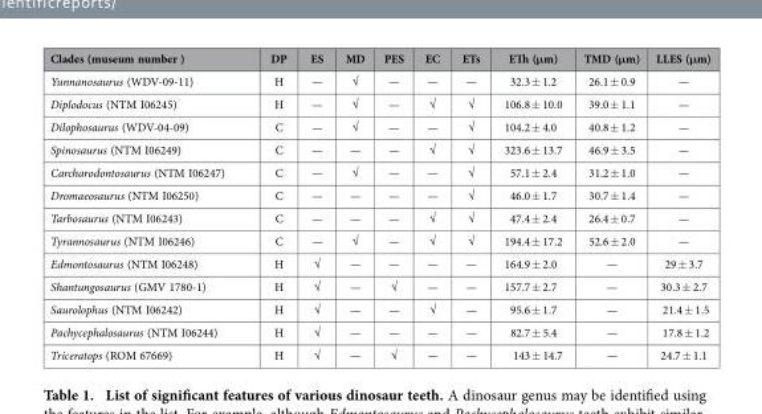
<table><thead><tr><td>Clades (museum number )</td><td>DP</td><td>ES</td><td>MD</td><td>PES</td><td>EC</td><td>ETs</td><td>ETh (μm)</td><td>TMD (μm)</td><td>LLES (μm)</td></tr></thead><tbody><tr><td>Yunnanosaurus (WDV-09-11)</td><td>H</td><td>—</td><td>√</td><td>—</td><td>—</td><td>—</td><td>32.3 ± 1.2</td><td>26.1 ± 0.9</td><td>—</td></tr><tr><td>Diplodocus (NTM I06245)</td><td>H</td><td>—</td><td>√</td><td>—</td><td>√</td><td>√</td><td>106.8 ± 10.0</td><td>39.0 ± 1.1</td><td>—</td></tr><tr><td>Dilophosaurus (WDV-04-09)</td><td>C</td><td>—</td><td>√</td><td>—</td><td>—</td><td>√</td><td>104.2 ± 4.0</td><td>40.8 ± 1.2</td><td>—</td></tr><tr><td>Spinosaurus (NTM I06249)</td><td>C</td><td>—</td><td>—</td><td>—</td><td>√</td><td>√</td><td>323.6 ± 13.7</td><td>46.9 ± 3.5</td><td>—</td></tr><tr><td>Carcharodontosaurus (NTM I06247)</td><td>C</td><td>—</td><td>√</td><td>—</td><td>—</td><td>√</td><td>57.1 ± 2.4</td><td>31.2 ± 1.0</td><td>—</td></tr><tr><td>Dromaeosaurus (NTM I06250)</td><td>C</td><td>—</td><td>—</td><td>—</td><td>—</td><td>√</td><td>46.0 ± 1.7</td><td>30.7 ± 1.4</td><td>—</td></tr><tr><td>Tarbosaurus (NTM I06243)</td><td>C</td><td>—</td><td>—</td><td>—</td><td>√</td><td>√</td><td>47.4 ± 2.4</td><td>26.4 ± 0.7</td><td>—</td></tr><tr><td>Tyrannosaurus (NTM I06246)</td><td>C</td><td>—</td><td>√</td><td>—</td><td>√</td><td>√</td><td>194.4 ± 17.2</td><td>52.6 ± 2.0</td><td>—</td></tr><tr><td>Edmontosaurus (NTM I06248)</td><td>H</td><td>√</td><td>—</td><td>—</td><td>—</td><td>—</td><td>164.9 ± 2.0</td><td>—</td><td>29 ± 3.7</td></tr><tr><td>Shantungosaurus (GMV 1780-1)</td><td>H</td><td>√</td><td>—</td><td>√</td><td>—</td><td>—</td><td>157.7 ± 2.7</td><td>—</td><td>30.3 ± 2.7</td></tr><tr><td>Saurolophus (NTM I06242)</td><td>H</td><td>√</td><td>—</td><td>—</td><td>√</td><td>—</td><td>95.6 ± 1.7</td><td>—</td><td>21.4 ± 1.5</td></tr><tr><td>Pachycephalosaurus (NTM I06244)</td><td>H</td><td>√</td><td>—</td><td>—</td><td>—</td><td>—</td><td>82.7 ± 5.4</td><td>—</td><td>17.8 ± 1.2</td></tr><tr><td>Triceratops (ROM 67669)</td><td>H</td><td>√</td><td>—</td><td>√</td><td>—</td><td>—</td><td>143 ± 14.7</td><td>—</td><td>24.7 ± 1.1</td></tr></tbody></table>